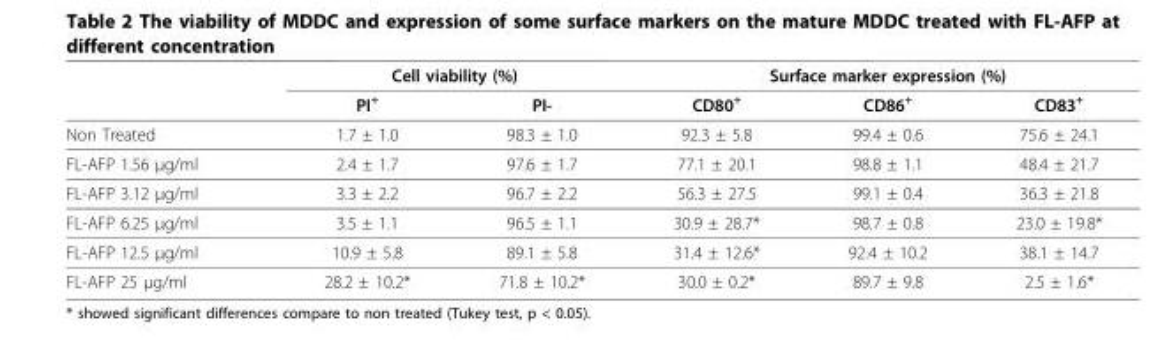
<table><thead><tr><td rowspan="2"></td><td colspan="2">Cell viability (%)</td><td colspan="3">Surface marker expression (%)</td></tr><tr><td>PI<sup>+</sup></td><td>PI-</td><td>CD80<sup>+</sup></td><td>CD86<sup>+</sup></td><td>CD83<sup>+</sup></td></tr></thead><tbody><tr><td>Non Treated</td><td>1.7 ± 1.0</td><td>98.3 ± 1.0</td><td>92.3 ± 5.8</td><td>99.4 ± 0.6</td><td>75.6 ± 24.1</td></tr><tr><td>FL-AFP 1.56 μg/ml</td><td>2.4 ± 1.7</td><td>97.6 ± 1.7</td><td>77.1 ± 20.1</td><td>98.8 ± 1.1</td><td>48.4 ± 21.7</td></tr><tr><td>FL-AFP 3.12 μg/ml</td><td>3.3 ± 2.2</td><td>96.7 ± 2.2</td><td>56.3 ± 27.5</td><td>99.1 ± 0.4</td><td>36.3 ± 21.8</td></tr><tr><td>FL-AFP 6.25 μg/ml</td><td>3.5 ± 1.1</td><td>96.5 ± 1.1</td><td>30.9 ± 28.7*</td><td>98.7 ± 0.8</td><td>23.0 ± 19.8*</td></tr><tr><td>FL-AFP 12.5 μg/ml</td><td>10.9 ± 5.8</td><td>89.1 ± 5.8</td><td>31.4 ± 12.6*</td><td>92.4 ± 10.2</td><td>38.1 ± 14.7</td></tr><tr><td>FL-AFP 25 μg/ml</td><td>28.2 ± 10.2*</td><td>71.8 ± 10.2*</td><td>30.0 ± 0.2*</td><td>89.7 ± 9.8</td><td>2.5 ± 1.6*</td></tr></tbody></table>